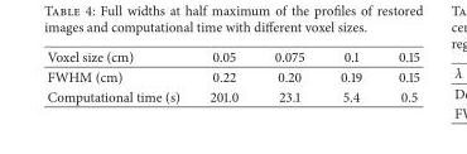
<table><thead><tr><td>Voxel size (cm)</td><td>0.05</td><td>0.075</td><td>0.1</td><td>0.15</td></tr></thead><tbody><tr><td>FWHM (cm)</td><td>0.22</td><td>0.20</td><td>0.19</td><td>0.15</td></tr><tr><td>Computational time (s)</td><td>201.0</td><td>23.1</td><td>5.4</td><td>0.5</td></tr></tbody></table>